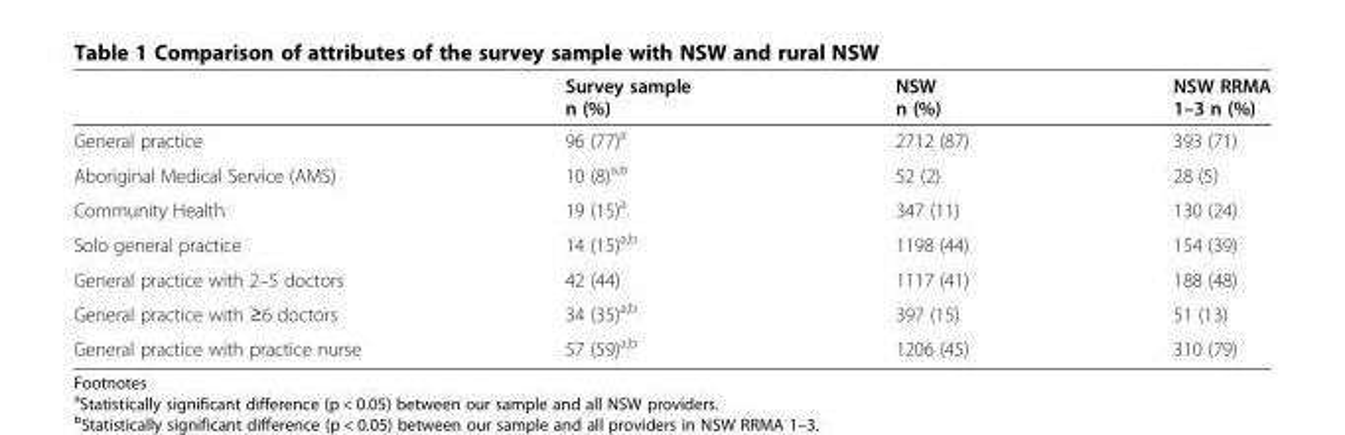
<table><thead><tr><td></td><td>Survey sample n (%)</td><td>NSW n (%)</td><td>NSW RRMA 1–3 n (%)</td></tr></thead><tbody><tr><td>General practice</td><td>96 (77)<sup>a</sup></td><td>2712 (87)</td><td>393 (71)</td></tr><tr><td>Aboriginal Medical Service (AMS)</td><td>10 (8)<sup>a,b</sup></td><td>52 (2)</td><td>28 (5)</td></tr><tr><td>Community Health</td><td>19 (15)<sup>a</sup></td><td>347 (11)</td><td>130 (24)</td></tr><tr><td>Solo general practice</td><td>14 (15)<sup>a,b</sup></td><td>1198 (44)</td><td>154 (39)</td></tr><tr><td>General practice with 2–5 doctors</td><td>42 (44)</td><td>1117 (41)</td><td>188 (48)</td></tr><tr><td>General practice with ≥6 doctors</td><td>34 (35)<sup>a,b</sup></td><td>397 (15)</td><td>51 (13)</td></tr><tr><td>General practice with practice nurse</td><td>57 (59)<sup>a,b</sup></td><td>1206 (45)</td><td>310 (79)</td></tr></tbody></table>